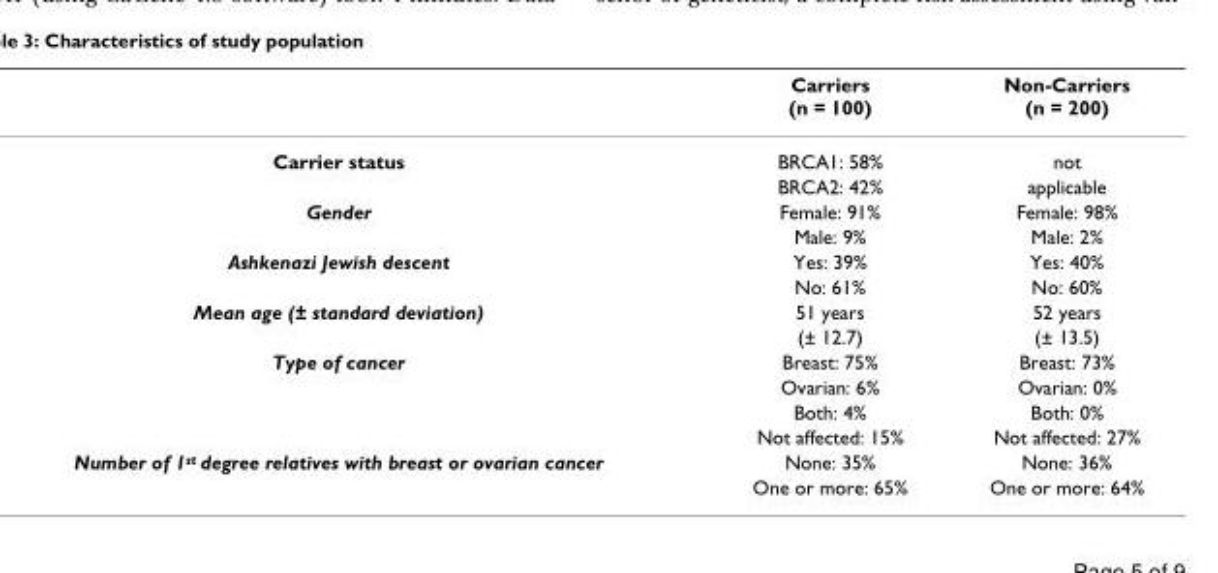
<table><thead><tr><td></td><td>Carriers (n = 100)</td><td>Non-Carriers (n = 200)</td></tr></thead><tbody><tr><td rowspan="2">Carrier status</td><td>BRCA1: 58%</td><td>not</td></tr><tr><td>BRCA2: 42%</td><td>applicable</td></tr><tr><td rowspan="2">Gender</td><td>Female: 91%</td><td>Female: 98%</td></tr><tr><td>Male: 9%</td><td>Male: 2%</td></tr><tr><td rowspan="2">Ashkenazi Jewish descent</td><td>Yes: 39%</td><td>Yes: 40%</td></tr><tr><td>No: 61%</td><td>No: 60%</td></tr><tr><td rowspan="2">Mean age (± standard deviation)</td><td>51 years</td><td>52 years</td></tr><tr><td>(± 12.7)</td><td>(± 13.5)</td></tr><tr><td rowspan="4">Type of cancer</td><td>Breast: 75%</td><td>Breast: 73%</td></tr><tr><td>Ovarian: 6%</td><td>Ovarian: 0%</td></tr><tr><td>Both: 4%</td><td>Both: 0%</td></tr><tr><td>Not affected: 15%</td><td>Not affected: 27%</td></tr><tr><td rowspan="2">Number of 1st degree relatives with breast or ovarian cancer</td><td>None: 35%</td><td>None: 36%</td></tr><tr><td>One or more: 65%</td><td>One or more: 64%</td></tr></tbody></table>